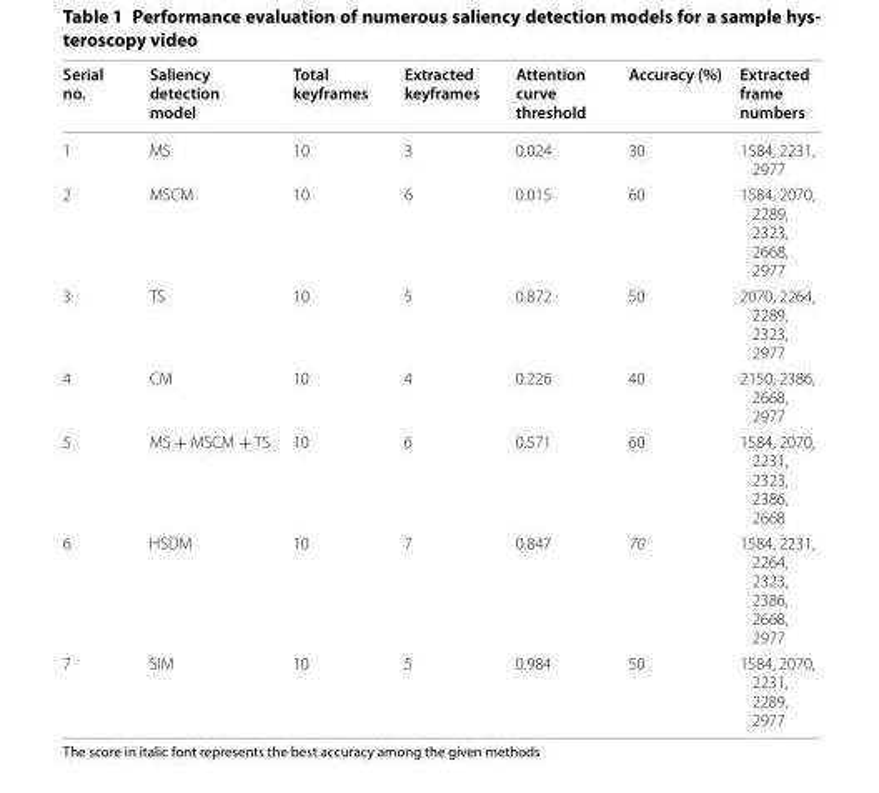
<table><thead><tr><td>Serial no.</td><td>Saliency detection model</td><td>Total keyframes</td><td>Extracted keyframes</td><td>Attention curve threshold</td><td>Accuracy (%)</td><td>Extracted frame numbers</td></tr></thead><tbody><tr><td>1</td><td>MS</td><td>10</td><td>3</td><td>0.024</td><td>30</td><td>1584, 2231, 2977</td></tr><tr><td>2</td><td>MSCM</td><td>10</td><td>6</td><td>0.015</td><td>60</td><td>1584, 2070, 2289, 2323, 2668, 2977</td></tr><tr><td>3</td><td>TS</td><td>10</td><td>5</td><td>0.872</td><td>50</td><td>2070, 2264, 2289, 2323, 2977</td></tr><tr><td>4</td><td>CM</td><td>10</td><td>4</td><td>0.226</td><td>40</td><td>2150, 2386, 2668, 2977</td></tr><tr><td>5</td><td>MS + MSCM + TS</td><td>10</td><td>6</td><td>0.571</td><td>60</td><td>1584, 2070, 2231, 2323, 2386, 2668</td></tr><tr><td>6</td><td>HSDM</td><td>10</td><td>7</td><td>0.847</td><td>70</td><td>1584, 2231, 2264, 2323, 2386, 2668, 2977</td></tr><tr><td>7</td><td>SIM</td><td>10</td><td>5</td><td>0.984</td><td>50</td><td>1584, 2070, 2231, 2289, 2977</td></tr></tbody></table>